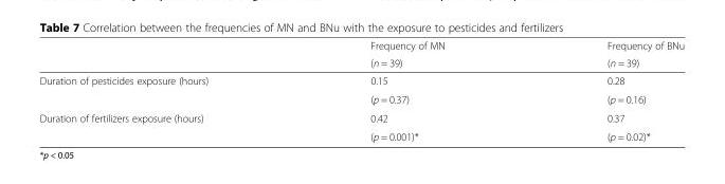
<table><thead><tr><td rowspan="2"></td><td rowspan="2">Frequency of MN (n = 39)</td><td rowspan="2">Frequency of BNu (n = 39)</td></tr><tr></tr></thead><tbody><tr><td rowspan="2">Duration of pesticides exposure (hours)</td><td>0.15</td><td>0.28</td></tr><tr><td>(p = 0.37)</td><td>(p = 0.16)</td></tr><tr><td rowspan="2">Duration of fertilizers exposure (hours)</td><td>0.42</td><td>0.37</td></tr><tr><td>(p = 0.001)*</td><td>(p = 0.02)*</td></tr></tbody></table>